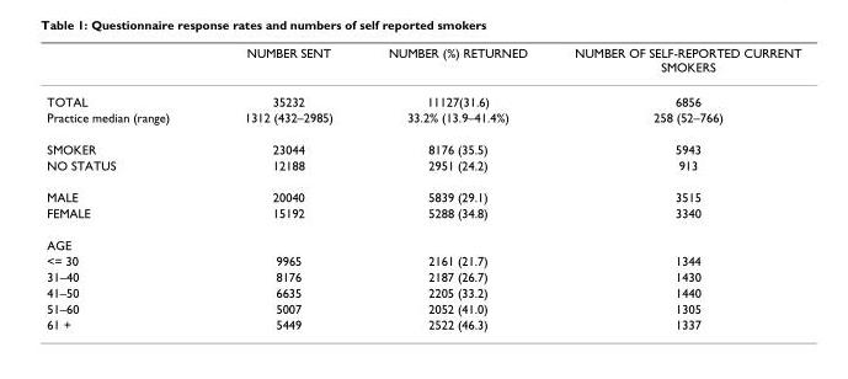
<table><thead><tr><td></td><td>NUMBER SENT</td><td>NUMBER (%) RETURNED</td><td>NUMBER OF SELF-REPORTED CURRENT SMOKERS</td></tr></thead><tbody><tr><td>TOTAL</td><td>35232</td><td>11127(31.6)</td><td>6856</td></tr><tr><td>Practice median (range)</td><td>1312 (432–2985)</td><td>33.2% (13.9–41.4%)</td><td>258 (52–766)</td></tr><tr><td>SMOKER</td><td>23044</td><td>8176 (35.5)</td><td>5943</td></tr><tr><td>NO STATUS</td><td>12188</td><td>2951 (24.2)</td><td>913</td></tr><tr><td>MALE</td><td>20040</td><td>5839 (29.1)</td><td>3515</td></tr><tr><td>FEMALE</td><td>15192</td><td>5288 (34.8)</td><td>3340</td></tr><tr><td colspan="4">AGE</td></tr><tr><td>&lt;= 30</td><td>9965</td><td>2161 (21.7)</td><td>1344</td></tr><tr><td>31–40</td><td>8176</td><td>2187 (26.7)</td><td>1430</td></tr><tr><td>41–50</td><td>6635</td><td>2205 (33.2)</td><td>1440</td></tr><tr><td>51–60</td><td>5007</td><td>2052 (41.0)</td><td>1305</td></tr><tr><td>61 +</td><td>5449</td><td>2522 (46.3)</td><td>1337</td></tr></tbody></table>